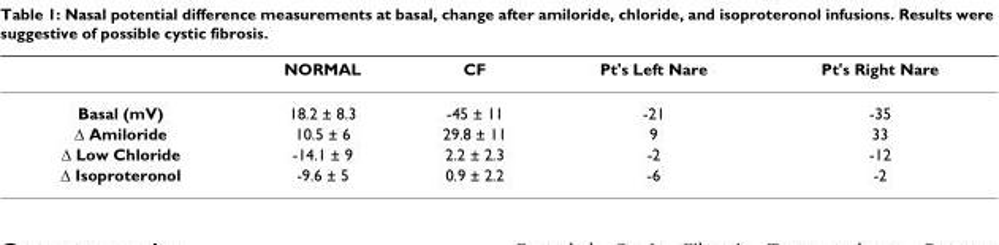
<table><thead><tr><td></td><td>NORMAL</td><td>CF</td><td>Pt&#x27;s Left Nare</td><td>Pt&#x27;s Right Nare</td></tr></thead><tbody><tr><td>Basal (mV)</td><td>18.2 ± 8.3</td><td>-45 ± 11</td><td>-21</td><td>-35</td></tr><tr><td>Δ Amiloride</td><td>10.5 ± 6</td><td>29.8 ± 11</td><td>9</td><td>33</td></tr><tr><td>Δ Low Chloride</td><td>-14.1 ± 9</td><td>2.2 ± 2.3</td><td>-2</td><td>-12</td></tr><tr><td>Δ Isoproteronol</td><td>-9.6 ± 5</td><td>0.9 ± 2.2</td><td>-6</td><td>-2</td></tr></tbody></table>